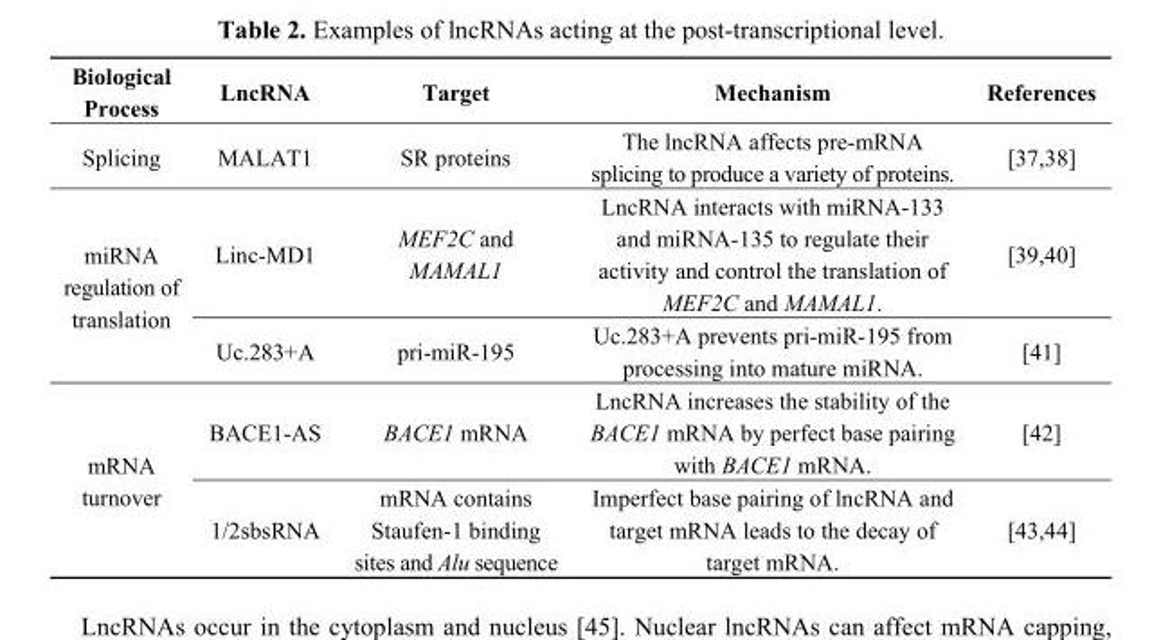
<table><thead><tr><td>Biological Process</td><td>LncRNA</td><td>Target</td><td>Mechanism</td><td>References</td></tr></thead><tbody><tr><td>Splicing</td><td>MALAT1</td><td>SR proteins</td><td>The lncRNA affects pre-mRNA splicing to produce a variety of proteins.</td><td>[37,38]</td></tr><tr><td rowspan="2">miRNA regulation of translation</td><td>Linc-MD1</td><td>MEF2C and MAMAL1</td><td>LncRNA interacts with miRNA-133 and miRNA-135 to regulate their activity and control the translation of MEF2C and MAMAL1.</td><td>[39,40]</td></tr><tr><td>Uc.283+A</td><td>pri-miR-195</td><td>Uc.283+A prevents pri-miR-195 from processing into mature miRNA.</td><td>[41]</td></tr><tr><td rowspan="2">mRNA turnover</td><td>BACE1-AS</td><td>BACE1 mRNA</td><td>LncRNA increases the stability of the BACE1 mRNA by perfect base pairing with BACE1 mRNA.</td><td>[42]</td></tr><tr><td>1/2sbsRNA</td><td>mRNA contains Staufen-1 binding sites and Alu sequence</td><td>Imperfect base pairing of lncRNA and target mRNA leads to the decay of target mRNA.</td><td>[43,44]</td></tr></tbody></table>